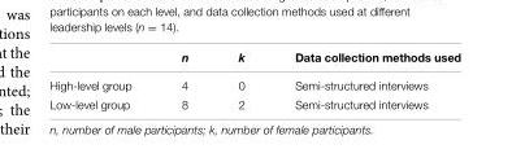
<table><thead><tr><td></td><td>n</td><td>k</td><td>Data collection methods used</td></tr></thead><tbody><tr><td>High-level group</td><td>4</td><td>0</td><td>Semi-structured interviews</td></tr><tr><td>Low-level group</td><td>8</td><td>2</td><td>Semi-structured interviews</td></tr></tbody></table>